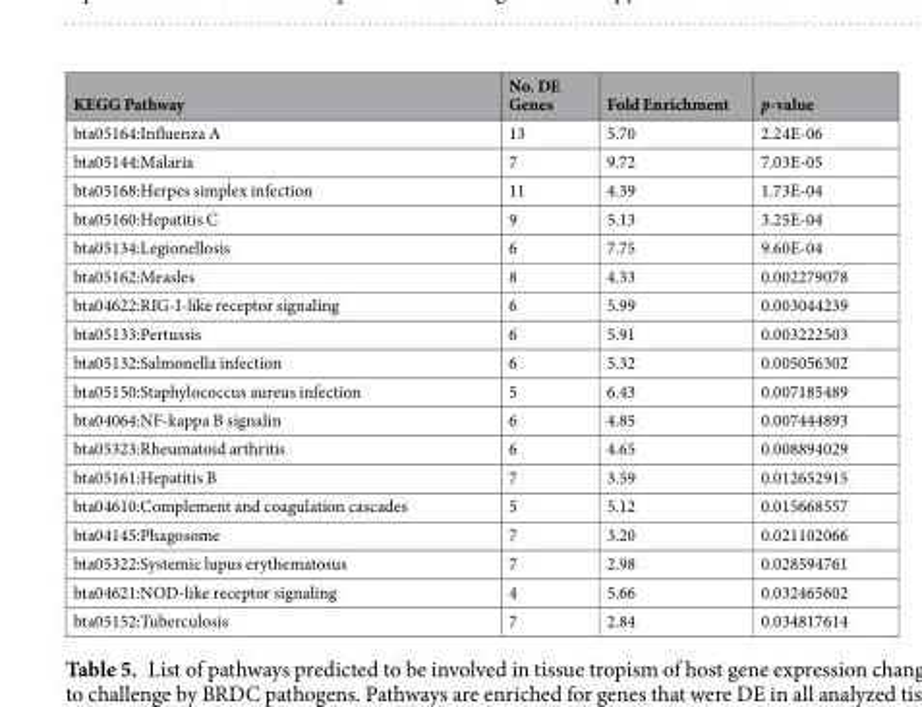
<table><thead><tr><td>KEGG Pathway</td><td>No. DE Genes</td><td>Fold Enrichment</td><td>p-value</td></tr></thead><tbody><tr><td>bta05164:Influenza A</td><td>13</td><td>5.70</td><td>2.24E-06</td></tr><tr><td>bta05144:Malaria</td><td>7</td><td>9.72</td><td>7.03E-05</td></tr><tr><td>bta05168:Herpes simplex infection</td><td>11</td><td>4.39</td><td>1.73E-04</td></tr><tr><td>bta05160:Hepatitis C</td><td>9</td><td>5.13</td><td>3.25E-04</td></tr><tr><td>bta05134:Legionellosis</td><td>6</td><td>7.75</td><td>9.60E-04</td></tr><tr><td>bta05162:Measles</td><td>8</td><td>4.33</td><td>0.002279078</td></tr><tr><td>bta04622:RIG-I-like receptor signaling</td><td>6</td><td>5.99</td><td>0.003044239</td></tr><tr><td>bta05133:Pertussis</td><td>6</td><td>5.91</td><td>0.003222503</td></tr><tr><td>bta05132:Salmonella infection</td><td>6</td><td>5.32</td><td>0.005056302</td></tr><tr><td>bta05150:Staphylococcus aureus infection</td><td>5</td><td>6.43</td><td>0.007185489</td></tr><tr><td>bta04064:NF-kappa B signalin</td><td>6</td><td>4.85</td><td>0.007444893</td></tr><tr><td>bta05323:Rheumatoid arthritis</td><td>6</td><td>4.65</td><td>0.008894029</td></tr><tr><td>bta05161:Hepatitis B</td><td>7</td><td>3.59</td><td>0.012652915</td></tr><tr><td>bta04610:Complement and coagulation cascades</td><td>5</td><td>5.12</td><td>0.015668557</td></tr><tr><td>bta04145:Phagosome</td><td>7</td><td>3.20</td><td>0.021102066</td></tr><tr><td>bta05322:Systemic lupus erythematosus</td><td>7</td><td>2.98</td><td>0.028594761</td></tr><tr><td>bta04621:NOD-like receptor signaling</td><td>4</td><td>5.66</td><td>0.032465602</td></tr><tr><td>bta05152:Tuberculosis</td><td>7</td><td>2.84</td><td>0.034817614</td></tr></tbody></table>